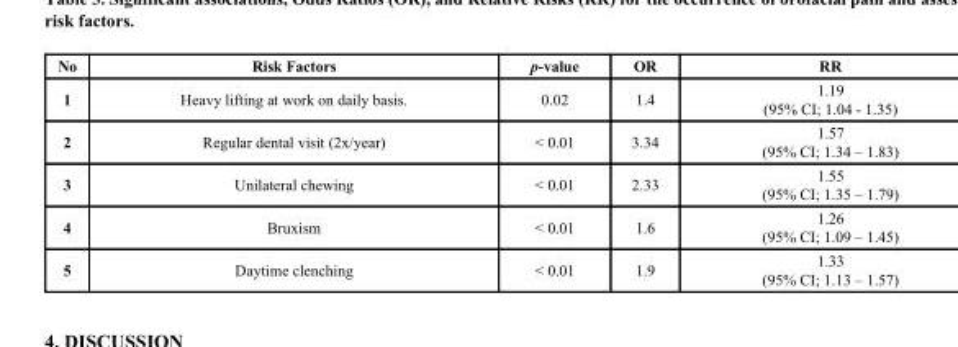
<table><thead><tr><td>No</td><td>Risk Factors</td><td>p-value</td><td>OR</td><td>RR</td></tr></thead><tbody><tr><td>1</td><td>Heavy lifting at work on daily basis.</td><td>0.02</td><td>1.4</td><td>1.19 (95% CI; 1.04 - 1.35)</td></tr><tr><td>2</td><td>Regular dental visit (2x/year)</td><td>&lt; 0.01</td><td>3.34</td><td>1.57 (95% CI; 1.34 – 1.83)</td></tr><tr><td>3</td><td>Unilateral chewing</td><td>&lt; 0.01</td><td>2.33</td><td>1.55 (95% CI; 1.35 – 1.79)</td></tr><tr><td>4</td><td>Bruxism</td><td>&lt; 0.01</td><td>1.6</td><td>1.26 (95% CI; 1.09 – 1.45)</td></tr><tr><td>5</td><td>Daytime clenching</td><td>&lt; 0.01</td><td>1.9</td><td>1.33 (95% CI; 1.13 – 1.57)</td></tr></tbody></table>